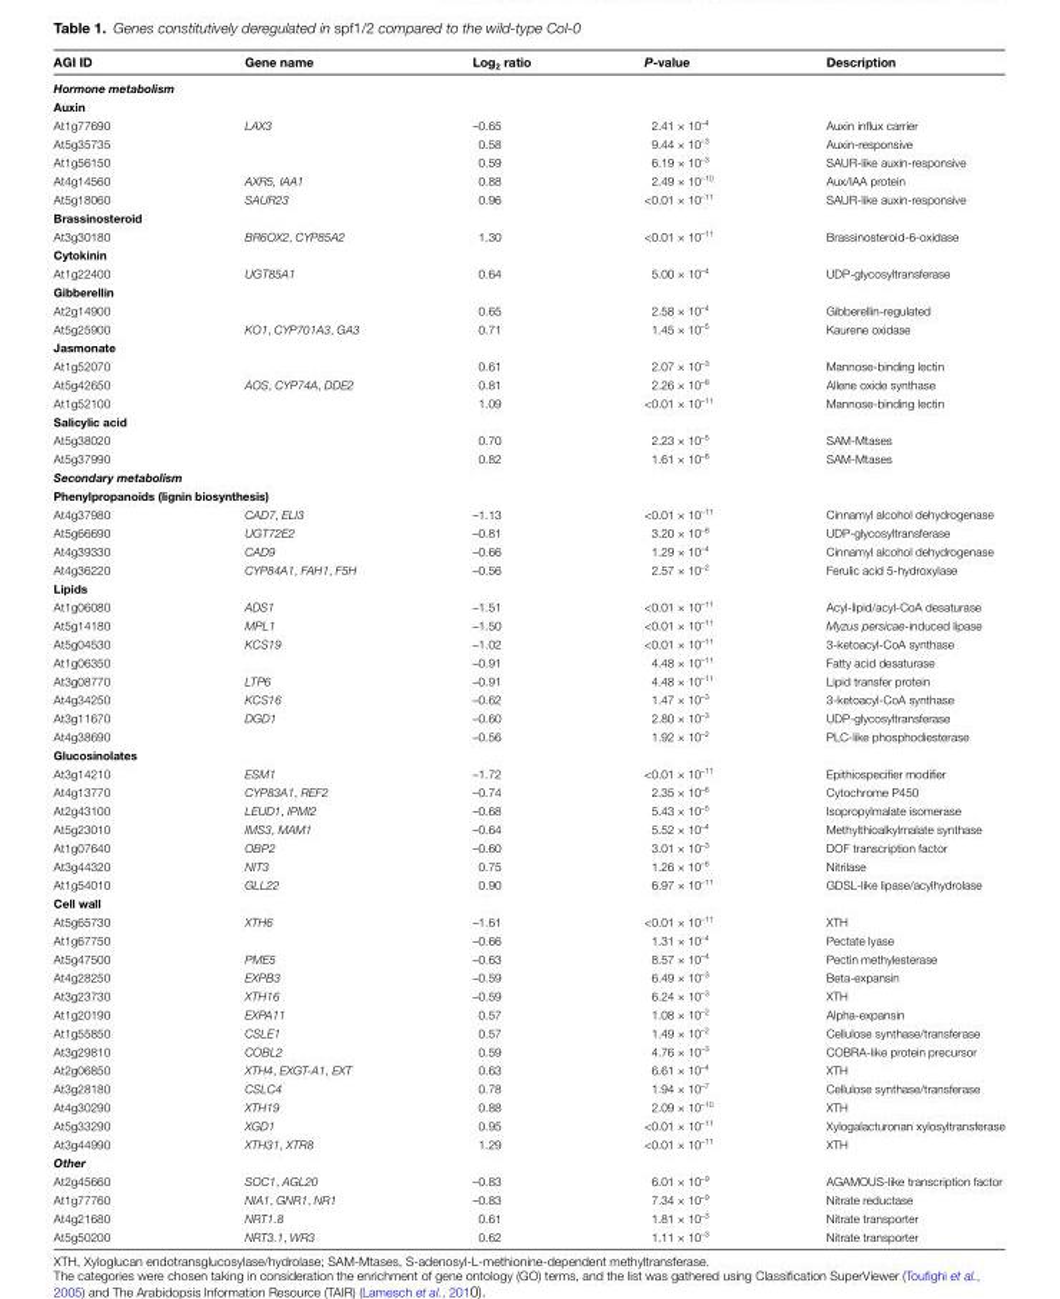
<table><thead><tr><td>AGI ID</td><td>Gene name</td><td>Log<sub>2</sub> ratio</td><td>P-value</td><td>Description</td></tr></thead><tbody><tr><td colspan="5">Hormone metabolism</td></tr><tr><td colspan="5">Auxin</td></tr><tr><td>At1g77690</td><td>LAX3</td><td>–0.65</td><td>2.41 × 10<sup>–4</sup></td><td>Auxin influx carrier</td></tr><tr><td>At5g35735</td><td></td><td>0.58</td><td>9.44 × 10<sup>–3</sup></td><td>Auxin-responsive</td></tr><tr><td>At1g56150</td><td></td><td>0.59</td><td>6.19 × 10<sup>–3</sup></td><td>SAUR-like auxin-responsive</td></tr><tr><td>At4g14560</td><td>AXR5, IAA1</td><td>0.88</td><td>2.49 × 10<sup>–10</sup></td><td>Aux/IAA protein</td></tr><tr><td>At5g18060</td><td>SAUR23</td><td>0.96</td><td>&lt;0.01 × 10<sup>–11</sup></td><td>SAUR-like auxin-responsive</td></tr><tr><td colspan="5">Brassinosteroid</td></tr><tr><td>At3g30180</td><td>BR6OX2, CYP85A2</td><td>1.30</td><td>&lt;0.01 × 10<sup>–11</sup></td><td>Brassinosteroid-6-oxidase</td></tr><tr><td colspan="5">Cytokinin</td></tr><tr><td>At1g22400</td><td>UGT85A1</td><td>0.64</td><td>5.00 × 10<sup>–4</sup></td><td>UDP-glycosyltransferase</td></tr><tr><td colspan="5">Gibberellin</td></tr><tr><td>At2g14900</td><td></td><td>0.65</td><td>2.58 × 10<sup>–4</sup></td><td>Gibberellin-regulated</td></tr><tr><td>At5g25900</td><td>KO1, CYP701A3, GA3</td><td>0.71</td><td>1.45 × 10<sup>–5</sup></td><td>Kaurene oxidase</td></tr><tr><td colspan="5">Jasmonate</td></tr><tr><td>At1g52070</td><td></td><td>0.61</td><td>2.07 × 10<sup>–3</sup></td><td>Mannose-binding lectin</td></tr><tr><td>At5g42650</td><td>AOS, CYP74A, DDE2</td><td>0.81</td><td>2.26 × 10<sup>–8</sup></td><td>Allene oxide synthase</td></tr><tr><td>At1g52100</td><td></td><td>1.09</td><td>&lt;0.01 × 10<sup>–11</sup></td><td>Mannose-binding lectin</td></tr><tr><td colspan="5">Salicylic acid</td></tr><tr><td>At5g38020</td><td></td><td>0.70</td><td>2.23 × 10<sup>–5</sup></td><td>SAM-Mtases</td></tr><tr><td>At5g37990</td><td></td><td>0.82</td><td>1.61 × 10<sup>–8</sup></td><td>SAM-Mtases</td></tr><tr><td colspan="5">Secondary metabolism</td></tr><tr><td colspan="5">Phenylpropanoids (lignin biosynthesis)</td></tr><tr><td>At4g37980</td><td>CAD7, ELI3</td><td>–1.13</td><td>&lt;0.01 × 10<sup>–11</sup></td><td>Cinnamyl alcohol dehydrogenase</td></tr><tr><td>At5g66690</td><td>UGT72E2</td><td>–0.81</td><td>3.20 × 10<sup>–8</sup></td><td>UDP-glycosyltransferase</td></tr><tr><td>At4g39330</td><td>CAD9</td><td>–0.66</td><td>1.29 × 10<sup>–4</sup></td><td>Cinnamyl alcohol dehydrogenase</td></tr><tr><td>At4g36220</td><td>CYP84A1, FAH1, F5H</td><td>–0.56</td><td>2.57 × 10<sup>–2</sup></td><td>Ferulic acid 5-hydroxylase</td></tr><tr><td colspan="5">Lipids</td></tr><tr><td>At1g06080</td><td>ADS1</td><td>–1.51</td><td>&lt;0.01 × 10<sup>–11</sup></td><td>Acyl-lipid/acyl-CoA desaturase</td></tr><tr><td>At5g14180</td><td>MPL1</td><td>–1.50</td><td>&lt;0.01 × 10<sup>–11</sup></td><td>Myzus persicae-induced lipase</td></tr><tr><td>At5g04530</td><td>KCS19</td><td>–1.02</td><td>&lt;0.01 × 10<sup>–11</sup></td><td>3-ketoacyl-CoA synthase</td></tr><tr><td>At1g06350</td><td></td><td>–0.91</td><td>4.48 × 10<sup>–11</sup></td><td>Fatty acid desaturase</td></tr><tr><td>At3g08770</td><td>LTP6</td><td>–0.91</td><td>4.48 × 10<sup>–11</sup></td><td>Lipid transfer protein</td></tr><tr><td>At4g34250</td><td>KCS16</td><td>–0.62</td><td>1.47 × 10<sup>–3</sup></td><td>3-ketoacyl-CoA synthase</td></tr><tr><td>At3g11670</td><td>DGD1</td><td>–0.60</td><td>2.80 × 10<sup>–3</sup></td><td>UDP-glycosyltransferase</td></tr><tr><td>At4g38690</td><td></td><td>–0.56</td><td>1.92 × 10<sup>–2</sup></td><td>PLC-like phosphodiesterase</td></tr><tr><td colspan="5">Glucosinolates</td></tr><tr><td>At3g14210</td><td>ESM1</td><td>–1.72</td><td>&lt;0.01 × 10<sup>–11</sup></td><td>Epithiospecifier modifier</td></tr><tr><td>At4g13770</td><td>CYP83A1, REF2</td><td>–0.74</td><td>2.35 × 10<sup>–6</sup></td><td>Cytochrome P450</td></tr><tr><td>At2g43100</td><td>LEUD1, IPMI2</td><td>–0.68</td><td>5.43 × 10<sup>–5</sup></td><td>Isopropylmalate isomerase</td></tr><tr><td>At5g23010</td><td>IMS3, MAM1</td><td>–0.64</td><td>5.52 × 10<sup>–4</sup></td><td>Methylthioalkylmalate synthase</td></tr><tr><td>At1g07640</td><td>OBP2</td><td>–0.60</td><td>3.01 × 10<sup>–3</sup></td><td>DOF transcription factor</td></tr><tr><td>At3g44320</td><td>NIT3</td><td>0.75</td><td>1.26 × 10<sup>–6</sup></td><td>Nitrilase</td></tr><tr><td>At1g54010</td><td>GLL22</td><td>0.90</td><td>6.97 × 10<sup>–11</sup></td><td>GDSL-like lipase/acylhydrolase</td></tr><tr><td colspan="5">Cell wall</td></tr><tr><td>At5g65730</td><td>XTH6</td><td>–1.61</td><td>&lt;0.01 × 10<sup>–11</sup></td><td>XTH</td></tr><tr><td>At1g67750</td><td></td><td>–0.66</td><td>1.31 × 10<sup>–4</sup></td><td>Pectate lyase</td></tr><tr><td>At5g47500</td><td>PME5</td><td>–0.63</td><td>8.57 × 10<sup>–4</sup></td><td>Pectin methylesterase</td></tr><tr><td>At4g28250</td><td>EXPB3</td><td>–0.59</td><td>6.49 × 10<sup>–3</sup></td><td>Beta-expansin</td></tr><tr><td>At3g23730</td><td>XTH16</td><td>–0.59</td><td>6.24 × 10<sup>–3</sup></td><td>XTH</td></tr><tr><td>At1g20190</td><td>EXPA11</td><td>0.57</td><td>1.08 × 10<sup>–2</sup></td><td>Alpha-expansin</td></tr><tr><td>At1g55850</td><td>CSLE1</td><td>0.57</td><td>1.49 × 10<sup>–2</sup></td><td>Cellulose synthase/transferase</td></tr><tr><td>At3g29810</td><td>COBL2</td><td>0.59</td><td>4.76 × 10<sup>–3</sup></td><td>COBRA-like protein precursor</td></tr><tr><td>At2g06850</td><td>XTH4, EXGT-A1, EXT</td><td>0.63</td><td>6.61 × 10<sup>–4</sup></td><td>XTH</td></tr><tr><td>At3g28180</td><td>CSLC4</td><td>0.78</td><td>1.94 × 10<sup>–7</sup></td><td>Cellulose synthase/transferase</td></tr><tr><td>At4g30290</td><td>XTH19</td><td>0.88</td><td>2.09 × 10<sup>–10</sup></td><td>XTH</td></tr><tr><td>At5g33290</td><td>XGD1</td><td>0.95</td><td>&lt;0.01 × 10<sup>–11</sup></td><td>Xylogalacturonan xylosyltransferase</td></tr><tr><td>At3g44990</td><td>XTH31, XTR8</td><td>1.29</td><td>&lt;0.01 × 10<sup>–11</sup></td><td>XTH</td></tr><tr><td colspan="5">Other</td></tr><tr><td>At2g45660</td><td>SOC1, AGL20</td><td>–0.83</td><td>6.01 × 10<sup>–9</sup></td><td>AGAMOUS-like transcription factor</td></tr><tr><td>At1g77760</td><td>NIA1, GNR1, NR1</td><td>–0.83</td><td>7.34 × 10<sup>–9</sup></td><td>Nitrate reductase</td></tr><tr><td>At4g21680</td><td>NRT1.8</td><td>0.61</td><td>1.81 × 10<sup>–3</sup></td><td>Nitrate transporter</td></tr><tr><td>At5g50200</td><td>NRT3.1, WR3</td><td>0.62</td><td>1.11 × 10<sup>–3</sup></td><td>Nitrate transporter</td></tr></tbody></table>